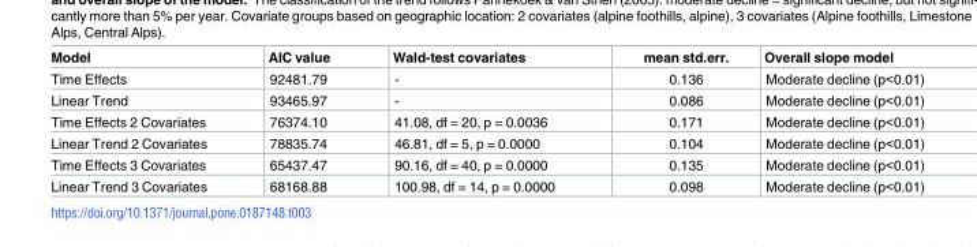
<table><thead><tr><td>Model</td><td>AIC value</td><td>Wald-test covariates</td><td>mean std.err.</td><td>Overall slope model</td></tr></thead><tbody><tr><td>Time Effects</td><td>92481.79</td><td>-</td><td>0.136</td><td>Moderate decline (p&lt;0.01)</td></tr><tr><td>Linear Trend</td><td>93465.97</td><td>-</td><td>0.086</td><td>Moderate decline (p&lt;0.01)</td></tr><tr><td>Time Effects 2 Covariates</td><td>76374.10</td><td>41.08, df = 20, p = 0.0036</td><td>0.171</td><td>Moderate decline (p&lt;0.01)</td></tr><tr><td>Linear Trend 2 Covariates</td><td>78835.74</td><td>46.81, df = 5, p = 0.0000</td><td>0.104</td><td>Moderate decline (p&lt;0.01)</td></tr><tr><td>Time Effects 3 Covariates</td><td>65437.47</td><td>90.16, df = 40, p = 0.0000</td><td>0.135</td><td>Moderate decline (p&lt;0.01)</td></tr><tr><td>Linear Trend 3 Covariates</td><td>68168.88</td><td>100.98, df = 14, p = 0.0000</td><td>0.098</td><td>Moderate decline (p&lt;0.01)</td></tr></tbody></table>